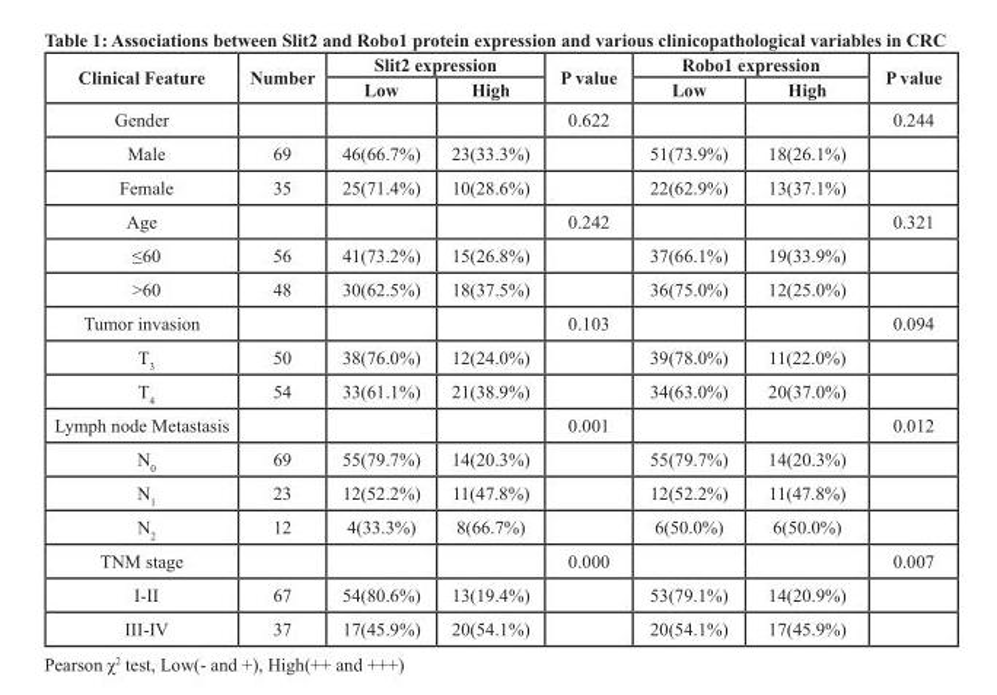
<table><thead><tr><td rowspan="2">Clinical Feature</td><td rowspan="2">Number</td><td colspan="2">Slit2 expression</td><td rowspan="2">P value</td><td colspan="2">Robo1 expression</td><td rowspan="2">P value</td></tr><tr><td>Low</td><td>High</td><td>Low</td><td>High</td></tr></thead><tbody><tr><td>Gender</td><td></td><td></td><td></td><td>0.622</td><td></td><td></td><td>0.244</td></tr><tr><td>Male</td><td>69</td><td>46(66.7%)</td><td>23(33.3%)</td><td></td><td>51(73.9%)</td><td>18(26.1%)</td><td></td></tr><tr><td>Female</td><td>35</td><td>25(71.4%)</td><td>10(28.6%)</td><td></td><td>22(62.9%)</td><td>13(37.1%)</td><td></td></tr><tr><td>Age</td><td></td><td></td><td></td><td>0.242</td><td></td><td></td><td>0.321</td></tr><tr><td>≤60</td><td>56</td><td>41(73.2%)</td><td>15(26.8%)</td><td></td><td>37(66.1%)</td><td>19(33.9%)</td><td></td></tr><tr><td>&gt;60</td><td>48</td><td>30(62.5%)</td><td>18(37.5%)</td><td></td><td>36(75.0%)</td><td>12(25.0%)</td><td></td></tr><tr><td>Tumor invasion</td><td></td><td></td><td></td><td>0.103</td><td></td><td></td><td>0.094</td></tr><tr><td>T<sub>3</sub></td><td>50</td><td>38(76.0%)</td><td>12(24.0%)</td><td></td><td>39(78.0%)</td><td>11(22.0%)</td><td></td></tr><tr><td>T<sub>4</sub></td><td>54</td><td>33(61.1%)</td><td>21(38.9%)</td><td></td><td>34(63.0%)</td><td>20(37.0%)</td><td></td></tr><tr><td>Lymph node Metastasis</td><td></td><td></td><td></td><td>0.001</td><td></td><td></td><td>0.012</td></tr><tr><td>N<sub>0</sub></td><td>69</td><td>55(79.7%)</td><td>14(20.3%)</td><td></td><td>55(79.7%)</td><td>14(20.3%)</td><td></td></tr><tr><td>N<sub>1</sub></td><td>23</td><td>12(52.2%)</td><td>11(47.8%)</td><td></td><td>12(52.2%)</td><td>11(47.8%)</td><td></td></tr><tr><td>N<sub>2</sub></td><td>12</td><td>4(33.3%)</td><td>8(66.7%)</td><td></td><td>6(50.0%)</td><td>6(50.0%)</td><td></td></tr><tr><td>TNM stage</td><td></td><td></td><td></td><td>0.000</td><td></td><td></td><td>0.007</td></tr><tr><td>I-II</td><td>67</td><td>54(80.6%)</td><td>13(19.4%)</td><td></td><td>53(79.1%)</td><td>14(20.9%)</td><td></td></tr><tr><td>III-IV</td><td>37</td><td>17(45.9%)</td><td>20(54.1%)</td><td></td><td>20(54.1%)</td><td>17(45.9%)</td><td></td></tr></tbody></table>